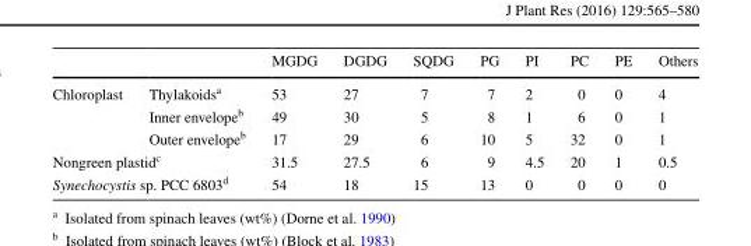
<table><thead><tr><td></td><td></td><td>MGDG</td><td>DGDG</td><td>SQDG</td><td>PG</td><td>PI</td><td>PC</td><td>PE</td><td>Others</td></tr></thead><tbody><tr><td rowspan="3">Chloroplast</td><td>Thylakoids<sup>a</sup></td><td>53</td><td>27</td><td>7</td><td>7</td><td>2</td><td>0</td><td>0</td><td>4</td></tr><tr><td>Inner envelope<sup>b</sup></td><td>49</td><td>30</td><td>5</td><td>8</td><td>1</td><td>6</td><td>0</td><td>1</td></tr><tr><td>Outer envelope<sup>b</sup></td><td>17</td><td>29</td><td>6</td><td>10</td><td>5</td><td>32</td><td>0</td><td>1</td></tr><tr><td colspan="2">Nongreen plastid<sup>c</sup></td><td>31.5</td><td>27.5</td><td>6</td><td>9</td><td>4.5</td><td>20</td><td>1</td><td>0.5</td></tr><tr><td colspan="2">Synechocystis sp. PCC 6803<sup>d</sup></td><td>54</td><td>18</td><td>15</td><td>13</td><td>0</td><td>0</td><td>0</td><td>0</td></tr></tbody></table>